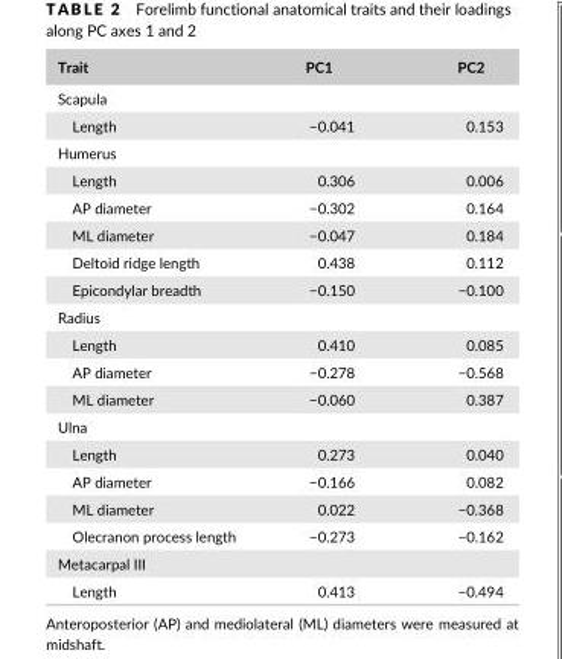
<table><thead><tr><td>Trait</td><td>PC1</td><td>PC2</td></tr></thead><tbody><tr><td colspan="3">Scapula</td></tr><tr><td>Length</td><td>−0.041</td><td>0.153</td></tr><tr><td colspan="3">Humerus</td></tr><tr><td>Length</td><td>0.306</td><td>0.006</td></tr><tr><td>AP diameter</td><td>−0.302</td><td>0.164</td></tr><tr><td>ML diameter</td><td>−0.047</td><td>0.184</td></tr><tr><td>Deltoid ridge length</td><td>0.438</td><td>0.112</td></tr><tr><td>Epicondylar breadth</td><td>−0.150</td><td>−0.100</td></tr><tr><td colspan="3">Radius</td></tr><tr><td>Length</td><td>0.410</td><td>0.085</td></tr><tr><td>AP diameter</td><td>−0.278</td><td>−0.568</td></tr><tr><td>ML diameter</td><td>−0.060</td><td>0.387</td></tr><tr><td colspan="3">Ulna</td></tr><tr><td>Length</td><td>0.273</td><td>0.040</td></tr><tr><td>AP diameter</td><td>−0.166</td><td>0.082</td></tr><tr><td>ML diameter</td><td>0.022</td><td>−0.368</td></tr><tr><td>Olecranon process length</td><td>−0.273</td><td>−0.162</td></tr><tr><td colspan="3">Metacarpal III</td></tr><tr><td>Length</td><td>0.413</td><td>−0.494</td></tr></tbody></table>